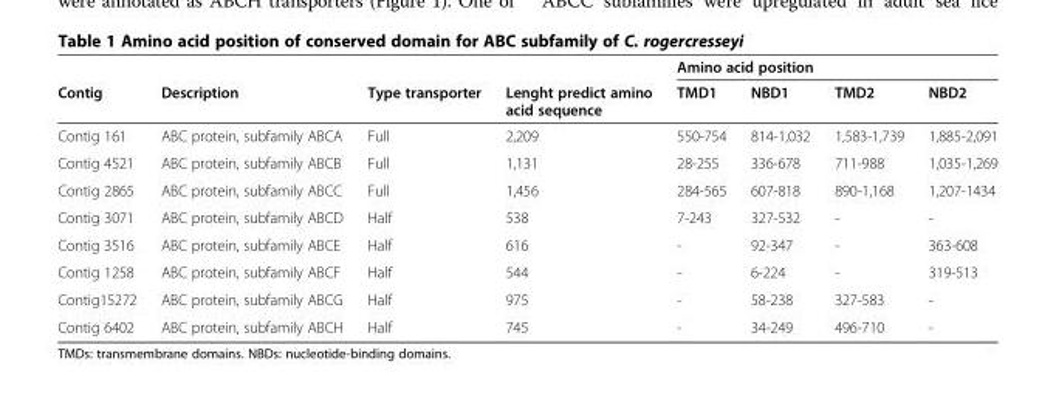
<table><thead><tr><td rowspan="2">Contig</td><td rowspan="2">Description</td><td rowspan="2">Type transporter</td><td rowspan="2">Lenght predict amino acid sequence</td><td colspan="4">Amino acid position</td></tr><tr><td>TMD1</td><td>NBD1</td><td>TMD2</td><td>NBD2</td></tr></thead><tbody><tr><td>Contig 161</td><td>ABC protein, subfamily ABCA</td><td>Full</td><td>2,209</td><td>550-754</td><td>814-1,032</td><td>1,583-1,739</td><td>1,885-2,091</td></tr><tr><td>Contig 4521</td><td>ABC protein, subfamily ABCB</td><td>Full</td><td>1,131</td><td>28-255</td><td>336-678</td><td>711-988</td><td>1,035-1,269</td></tr><tr><td>Contig 2865</td><td>ABC protein, subfamily ABCC</td><td>Full</td><td>1,456</td><td>284-565</td><td>607-818</td><td>890-1,168</td><td>1,207-1434</td></tr><tr><td>Contig 3071</td><td>ABC protein, subfamily ABCD</td><td>Half</td><td>538</td><td>7-243</td><td>327-532</td><td>-</td><td>-</td></tr><tr><td>Contig 3516</td><td>ABC protein, subfamily ABCE</td><td>Half</td><td>616</td><td>-</td><td>92-347</td><td>-</td><td>363-608</td></tr><tr><td>Contig 1258</td><td>ABC protein, subfamily ABCF</td><td>Half</td><td>544</td><td>-</td><td>6-224</td><td>-</td><td>319-513</td></tr><tr><td>Contig15272</td><td>ABC protein, subfamily ABCG</td><td>Half</td><td>975</td><td>-</td><td>58-238</td><td>327-583</td><td>-</td></tr><tr><td>Contig 6402</td><td>ABC protein, subfamily ABCH</td><td>Half</td><td>745</td><td>-</td><td>34-249</td><td>496-710</td><td>-</td></tr></tbody></table>